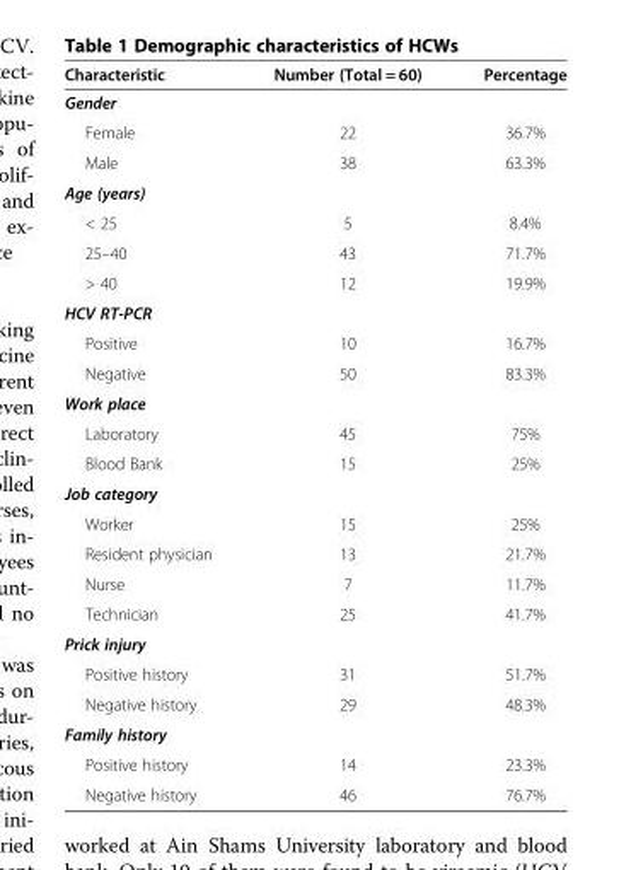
<table><thead><tr><td>Characteristic</td><td>Number (Total = 60)</td><td>Percentage</td></tr></thead><tbody><tr><td colspan="3">Gender</td></tr><tr><td>Female</td><td>22</td><td>36.7%</td></tr><tr><td>Male</td><td>38</td><td>63.3%</td></tr><tr><td colspan="3">Age (years)</td></tr><tr><td>&lt; 25</td><td>5</td><td>8.4%</td></tr><tr><td>25–40</td><td>43</td><td>71.7%</td></tr><tr><td>&gt; 40</td><td>12</td><td>19.9%</td></tr><tr><td colspan="3">HCV RT-PCR</td></tr><tr><td>Positive</td><td>10</td><td>16.7%</td></tr><tr><td>Negative</td><td>50</td><td>83.3%</td></tr><tr><td colspan="3">Work place</td></tr><tr><td>Laboratory</td><td>45</td><td>75%</td></tr><tr><td>Blood Bank</td><td>15</td><td>25%</td></tr><tr><td colspan="3">Job category</td></tr><tr><td>Worker</td><td>15</td><td>25%</td></tr><tr><td>Resident physician</td><td>13</td><td>21.7%</td></tr><tr><td>Nurse</td><td>7</td><td>11.7%</td></tr><tr><td>Technician</td><td>25</td><td>41.7%</td></tr><tr><td colspan="3">Prick injury</td></tr><tr><td>Positive history</td><td>31</td><td>51.7%</td></tr><tr><td>Negative history</td><td>29</td><td>48.3%</td></tr><tr><td colspan="3">Family history</td></tr><tr><td>Positive history</td><td>14</td><td>23.3%</td></tr><tr><td>Negative history</td><td>46</td><td>76.7%</td></tr></tbody></table>